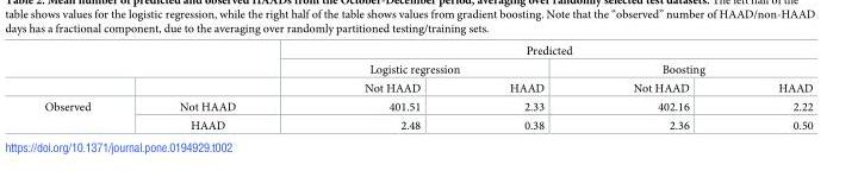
<table><thead><tr><td rowspan="3"></td><td rowspan="3"></td><td colspan="4">Predicted</td></tr><tr><td colspan="2">Logistic regression</td><td colspan="2">Boosting</td></tr><tr><td>Not HAAD</td><td>HAAD</td><td>Not HAAD</td><td>HAAD</td></tr></thead><tbody><tr><td rowspan="2">Observed</td><td>Not HAAD</td><td>401.51</td><td>2.33</td><td>402.16</td><td>2.22</td></tr><tr><td>HAAD</td><td>2.48</td><td>0.38</td><td>2.36</td><td>0.50</td></tr></tbody></table>